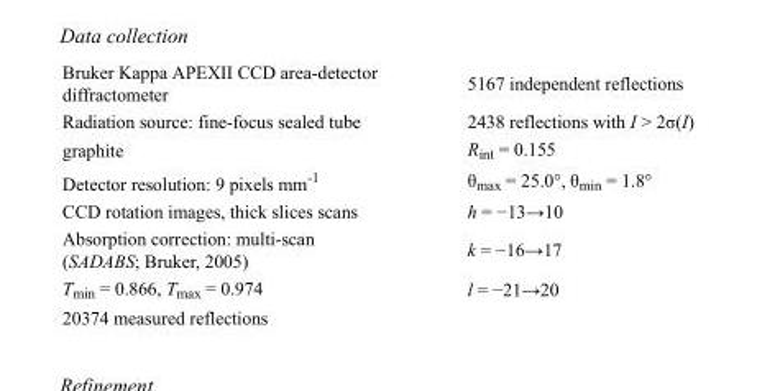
<table><tbody><tr><td>Bruker Kappa APEXII CCD area-detector diffractometer</td><td>5167 independent reflections</td></tr><tr><td>Radiation source: fine-focus sealed tube</td><td>2438 reflections with I &gt; 2σ(I)</td></tr><tr><td>graphite</td><td>R<sub>int</sub> = 0.155</td></tr><tr><td>Detector resolution: 9 pixels mm<sup>-1</sup></td><td>θ<sub>max</sub> = 25.0°, θ<sub>min</sub> = 1.8°</td></tr><tr><td>CCD rotation images, thick slices scans</td><td>h = −13→10</td></tr><tr><td>Absorption correction: multi-scan (SADABS; Bruker, 2005)</td><td>k = −16→17</td></tr><tr><td>T<sub>min</sub> = 0.866, T<sub>max</sub> = 0.974</td><td>l = −21→20</td></tr><tr><td>20374 measured reflections</td><td></td></tr></tbody></table>